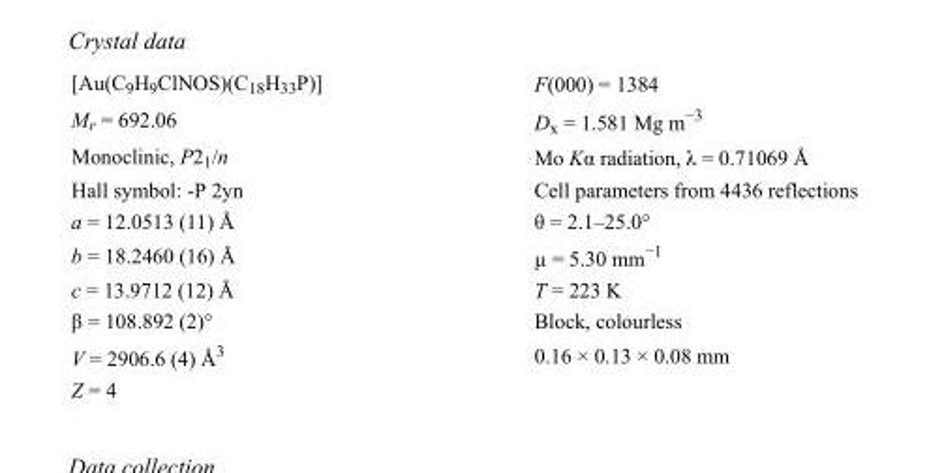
<table><tbody><tr><td>[Au(C<sub>9</sub>H<sub>9</sub>ClNOS)(C<sub>18</sub>H<sub>33</sub>P)]</td><td>F(000) = 1384</td></tr><tr><td>M<sub>r</sub> = 692.06</td><td>D<sub>x</sub> = 1.581 Mg m<sup>−3</sup></td></tr><tr><td>Monoclinic, P2<sub>1</sub>/n</td><td>Mo Kα radiation, λ = 0.71069 Å</td></tr><tr><td>Hall symbol: -P 2yn</td><td>Cell parameters from 4436 reflections</td></tr><tr><td>a = 12.0513 (11) Å</td><td>θ = 2.1–25.0°</td></tr><tr><td>b = 18.2460 (16) Å</td><td>µ = 5.30 mm<sup>−1</sup></td></tr><tr><td>c = 13.9712 (12) Å</td><td>T = 223 K</td></tr><tr><td>β = 108.892 (2)°</td><td>Block, colourless</td></tr><tr><td>V = 2906.6 (4) Å<sup>3</sup></td><td>0.16 × 0.13 × 0.08 mm</td></tr><tr><td>Z = 4</td><td></td></tr></tbody></table>